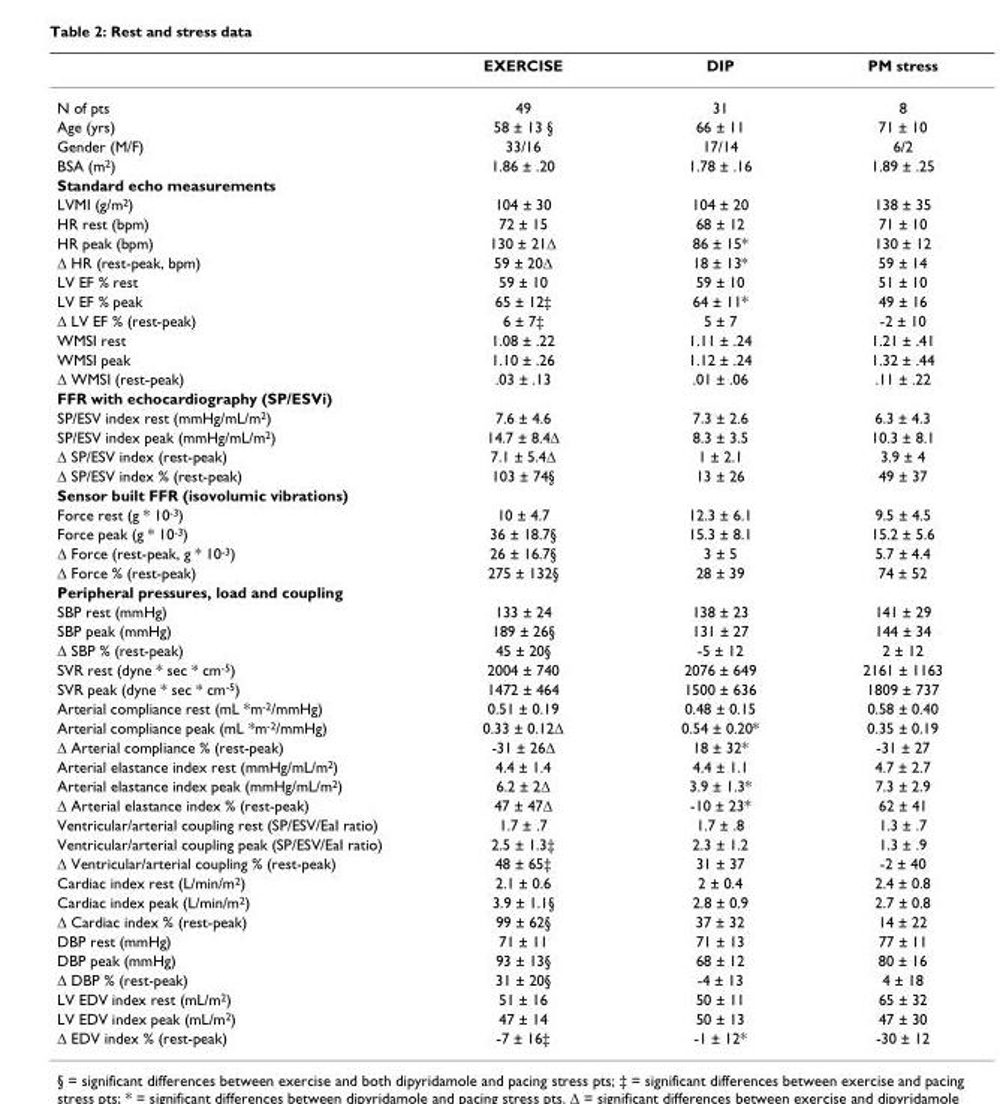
<table><thead><tr><td></td><td>EXERCISE</td><td>DIP</td><td>PM stress</td></tr></thead><tbody><tr><td>N of pts</td><td>49</td><td>31</td><td>8</td></tr><tr><td>Age (yrs)</td><td>58 ± 13 §</td><td>66 ± 11</td><td>71 ± 10</td></tr><tr><td>Gender (M/F)</td><td>33/16</td><td>17/14</td><td>6/2</td></tr><tr><td>BSA (m<sup>2</sup>)</td><td>1.86 ± .20</td><td>1.78 ± .16</td><td>1.89 ± .25</td></tr><tr><td colspan="4">Standard echo measurements</td></tr><tr><td>LVMI (g/m<sup>2</sup>)</td><td>104 ± 30</td><td>104 ± 20</td><td>138 ± 35</td></tr><tr><td>HR rest (bpm)</td><td>72 ± 15</td><td>68 ± 12</td><td>71 ± 10</td></tr><tr><td>HR peak (bpm)</td><td>130 ± 21Δ</td><td>86 ± 15*</td><td>130 ± 12</td></tr><tr><td>Δ HR (rest-peak, bpm)</td><td>59 ± 20Δ</td><td>18 ± 13*</td><td>59 ± 14</td></tr><tr><td>LV EF % rest</td><td>59 ± 10</td><td>59 ± 10</td><td>51 ± 10</td></tr><tr><td>LV EF % peak</td><td>65 ± 12‡</td><td>64 ± 11*</td><td>49 ± 16</td></tr><tr><td>Δ LV EF % (rest-peak)</td><td>6 ± 7‡</td><td>5 ± 7</td><td>-2 ± 10</td></tr><tr><td>WMSI rest</td><td>1.08 ± .22</td><td>1.11 ± .24</td><td>1.21 ± .41</td></tr><tr><td>WMSI peak</td><td>1.10 ± .26</td><td>1.12 ± .24</td><td>1.32 ± .44</td></tr><tr><td>Δ WMSI (rest-peak)</td><td>.03 ± .13</td><td>.01 ± .06</td><td>.11 ± .22</td></tr><tr><td colspan="4">FFR with echocardiography (SP/ESVi)</td></tr><tr><td>SP/ESV index rest (mmHg/mL/m<sup>2</sup>)</td><td>7.6 ± 4.6</td><td>7.3 ± 2.6</td><td>6.3 ± 4.3</td></tr><tr><td>SP/ESV index peak (mmHg/mL/m<sup>2</sup>)</td><td>14.7 ± 8.4Δ</td><td>8.3 ± 3.5</td><td>10.3 ± 8.1</td></tr><tr><td>Δ SP/ESV index (rest-peak)</td><td>7.1 ± 5.4Δ</td><td>1 ± 2.1</td><td>3.9 ± 4</td></tr><tr><td>Δ SP/ESV index % (rest-peak)</td><td>103 ± 74§</td><td>13 ± 26</td><td>49 ± 37</td></tr><tr><td colspan="4">Sensor built FFR (isovolumic vibrations)</td></tr><tr><td>Force rest (g * 10<sup>-3</sup>)</td><td>10 ± 4.7</td><td>12.3 ± 6.1</td><td>9.5 ± 4.5</td></tr><tr><td>Force peak (g * 10<sup>-3</sup>)</td><td>36 ± 18.7§</td><td>15.3 ± 8.1</td><td>15.2 ± 5.6</td></tr><tr><td>Δ Force (rest-peak, g * 10<sup>-3</sup>)</td><td>26 ± 16.7§</td><td>3 ± 5</td><td>5.7 ± 4.4</td></tr><tr><td>Δ Force % (rest-peak)</td><td>275 ± 132§</td><td>28 ± 39</td><td>74 ± 52</td></tr><tr><td colspan="4">Peripheral pressures, load and coupling</td></tr><tr><td>SBP rest (mmHg)</td><td>133 ± 24</td><td>138 ± 23</td><td>141 ± 29</td></tr><tr><td>SBP peak (mmHg)</td><td>189 ± 26§</td><td>131 ± 27</td><td>144 ± 34</td></tr><tr><td>Δ SBP % (rest-peak)</td><td>45 ± 20§</td><td>-5 ± 12</td><td>2 ± 12</td></tr><tr><td>SVR rest (dyne * sec * cm<sup>-5</sup>)</td><td>2004 ± 740</td><td>2076 ± 649</td><td>2161 ± 1163</td></tr><tr><td>SVR peak (dyne * sec * cm<sup>-5</sup>)</td><td>1472 ± 464</td><td>1500 ± 636</td><td>1809 ± 737</td></tr><tr><td>Arterial compliance rest (mL *m<sup>-2</sup>/mmHg)</td><td>0.51 ± 0.19</td><td>0.48 ± 0.15</td><td>0.58 ± 0.40</td></tr><tr><td>Arterial compliance peak (mL *m<sup>-2</sup>/mmHg)</td><td>0.33 ± 0.12Δ</td><td>0.54 ± 0.20*</td><td>0.35 ± 0.19</td></tr><tr><td>Δ Arterial compliance % (rest-peak)</td><td>-31 ± 26Δ</td><td>18 ± 32*</td><td>-31 ± 27</td></tr><tr><td>Arterial elastance index rest (mmHg/mL/m<sup>2</sup>)</td><td>4.4 ± 1.4</td><td>4.4 ± 1.1</td><td>4.7 ± 2.7</td></tr><tr><td>Arterial elastance index peak (mmHg/mL/m<sup>2</sup>)</td><td>6.2 ± 2Δ</td><td>3.9 ± 1.3*</td><td>7.3 ± 2.9</td></tr><tr><td>Δ Arterial elastance index % (rest-peak)</td><td>47 ± 47Δ</td><td>-10 ± 23*</td><td>62 ± 41</td></tr><tr><td>Ventricular/arterial coupling rest (SP/ESV/EaI ratio)</td><td>1.7 ± .7</td><td>1.7 ± .8</td><td>1.3 ± .7</td></tr><tr><td>Ventricular/arterial coupling peak (SP/ESV/EaI ratio)</td><td>2.5 ± 1.3‡</td><td>2.3 ± 1.2</td><td>1.3 ± .9</td></tr><tr><td>Δ Ventricular/arterial coupling % (rest-peak)</td><td>48 ± 65‡</td><td>31 ± 37</td><td>-2 ± 40</td></tr><tr><td>Cardiac index rest (L/min/m<sup>2</sup>)</td><td>2.1 ± 0.6</td><td>2 ± 0.4</td><td>2.4 ± 0.8</td></tr><tr><td>Cardiac index peak (L/min/m<sup>2</sup>)</td><td>3.9 ± 1.1§</td><td>2.8 ± 0.9</td><td>2.7 ± 0.8</td></tr><tr><td>Δ Cardiac index % (rest-peak)</td><td>99 ± 62§</td><td>37 ± 32</td><td>14 ± 22</td></tr><tr><td>DBP rest (mmHg)</td><td>71 ± 11</td><td>71 ± 13</td><td>77 ± 11</td></tr><tr><td>DBP peak (mmHg)</td><td>93 ± 13§</td><td>68 ± 12</td><td>80 ± 16</td></tr><tr><td>Δ DBP % (rest-peak)</td><td>31 ± 20§</td><td>-4 ± 13</td><td>4 ± 18</td></tr><tr><td>LV EDV index rest (mL/m<sup>2</sup>)</td><td>51 ± 16</td><td>50 ± 11</td><td>65 ± 32</td></tr><tr><td>LV EDV index peak (mL/m<sup>2</sup>)</td><td>47 ± 14</td><td>50 ± 13</td><td>47 ± 30</td></tr><tr><td>Δ EDV index % (rest-peak)</td><td>-7 ± 16‡</td><td>-1 ± 12*</td><td>-30 ± 12</td></tr></tbody></table>